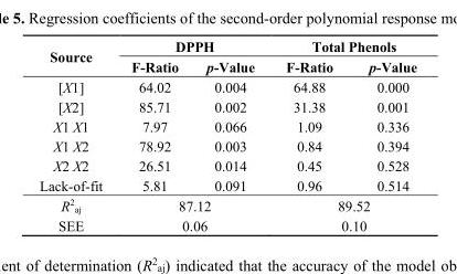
<table><thead><tr><td rowspan="2">Source</td><td colspan="2">DPPH</td><td colspan="2">Total Phenols</td></tr><tr><td>F-Ratio</td><td>p-Value</td><td>F-Ratio</td><td>p-Value</td></tr></thead><tbody><tr><td>[X1]</td><td>64.02</td><td>0.004</td><td>64.88</td><td>0.000</td></tr><tr><td>[X2]</td><td>85.71</td><td>0.002</td><td>31.38</td><td>0.001</td></tr><tr><td>X1 X1</td><td>7.97</td><td>0.066</td><td>1.09</td><td>0.336</td></tr><tr><td>X1 X2</td><td>78.92</td><td>0.003</td><td>0.84</td><td>0.394</td></tr><tr><td>X2 X2</td><td>26.51</td><td>0.014</td><td>0.45</td><td>0.528</td></tr><tr><td>Lack-of-fit</td><td>5.81</td><td>0.091</td><td>0.96</td><td>0.514</td></tr><tr><td>R<sup>2</sup><sub>aj</sub></td><td colspan="2">87.12</td><td colspan="2">89.52</td></tr><tr><td>SEE</td><td colspan="2">0.06</td><td colspan="2">0.10</td></tr></tbody></table>